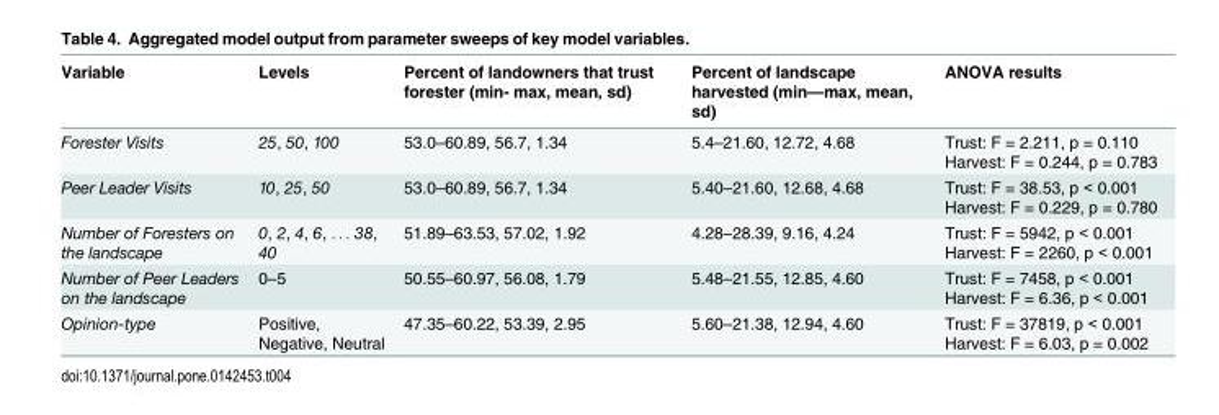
<table><thead><tr><td>Variable</td><td>Levels</td><td>Percent of landowners that trust forester (min- max, mean, sd)</td><td>Percent of landscape harvested (min—max, mean, sd)</td><td>ANOVA results</td></tr></thead><tbody><tr><td>Forester Visits</td><td>25, 50, 100</td><td>53.0–60.89, 56.7, 1.34</td><td>5.4–21.60, 12.72, 4.68</td><td>Trust: F = 2.211, p = 0.110 Harvest: F = 0.244, p = 0.783</td></tr><tr><td>Peer Leader Visits</td><td>10, 25, 50</td><td>53.0–60.89, 56.7, 1.34</td><td>5.40–21.60, 12.68, 4.68</td><td>Trust: F = 38.53, p &lt; 0.001 Harvest: F = 0.229, p = 0.780</td></tr><tr><td>Number of Foresters on the landscape</td><td>0, 2, 4, 6, . . . 38, 40</td><td>51.89–63.53, 57.02, 1.92</td><td>4.28–28.39, 9.16, 4.24</td><td>Trust: F = 5942, p &lt; 0.001 Harvest: F = 2260, p &lt; 0.001</td></tr><tr><td>Number of Peer Leaders on the landscape</td><td>0–5</td><td>50.55–60.97, 56.08, 1.79</td><td>5.48–21.55, 12.85, 4.60</td><td>Trust: F = 7458, p &lt; 0.001 Harvest: F = 6.36, p &lt; 0.001</td></tr><tr><td>Opinion-type</td><td>Positive, Negative, Neutral</td><td>47.35–60.22, 53.39, 2.95</td><td>5.60–21.38, 12.94, 4.60</td><td>Trust: F = 37819, p &lt; 0.001 Harvest: F = 6.03, p = 0.002</td></tr></tbody></table>